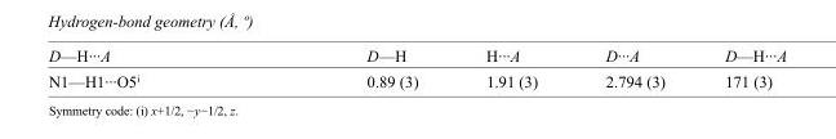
<table><tbody><tr><td>D—H···A</td><td>D—H</td><td>H···A</td><td>D···A</td><td>D—H···A</td></tr><tr><td>N1—H1···O5<sup>i</sup></td><td>0.89 (3)</td><td>1.91 (3)</td><td>2.794 (3)</td><td>171 (3)</td></tr></tbody></table>